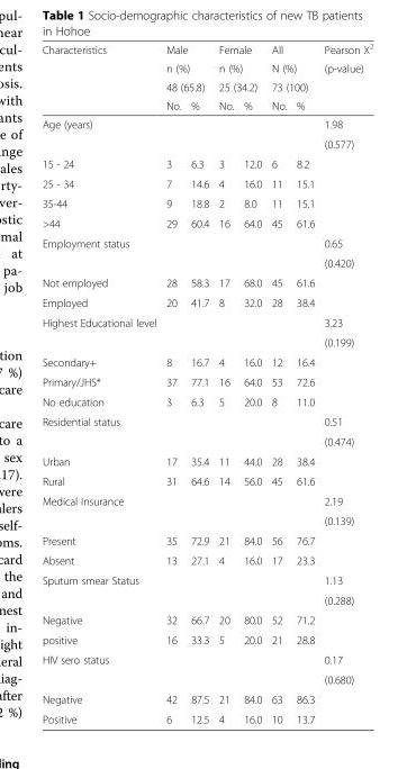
<table><thead><tr><td rowspan="4">Characteristics</td><td rowspan="3" colspan="2">Male n (%) 48 (65.8)</td><td rowspan="3" colspan="2">Female n (%) 25 (34.2)</td><td rowspan="3" colspan="2">All N (%) 73 (100)</td><td rowspan="4">Pearson Χ<sup>2</sup> (p-value)</td></tr><tr></tr><tr></tr><tr><td>No.</td><td>%</td><td>No.</td><td>%</td><td>No.</td><td>%</td></tr></thead><tbody><tr><td rowspan="2">Age (years)</td><td rowspan="2"></td><td rowspan="2"></td><td rowspan="2"></td><td rowspan="2"></td><td rowspan="2"></td><td rowspan="2"></td><td>1.98</td></tr><tr><td>(0.577)</td></tr><tr><td>15 - 24</td><td>3</td><td>6.3</td><td>3</td><td>12.0</td><td>6</td><td>8.2</td><td></td></tr><tr><td>25 - 34</td><td>7</td><td>14.6</td><td>4</td><td>16.0</td><td>11</td><td>15.1</td><td></td></tr><tr><td>35-44</td><td>9</td><td>18.8</td><td>2</td><td>8.0</td><td>11</td><td>15.1</td><td></td></tr><tr><td>&gt;44</td><td>29</td><td>60.4</td><td>16</td><td>64.0</td><td>45</td><td>61.6</td><td></td></tr><tr><td rowspan="2">Employment status</td><td rowspan="2"></td><td rowspan="2"></td><td rowspan="2"></td><td rowspan="2"></td><td rowspan="2"></td><td rowspan="2"></td><td>0.65</td></tr><tr><td>(0.420)</td></tr><tr><td>Not employed</td><td>28</td><td>58.3</td><td>17</td><td>68.0</td><td>45</td><td>61.6</td><td></td></tr><tr><td>Employed</td><td>20</td><td>41.7</td><td>8</td><td>32.0</td><td>28</td><td>38.4</td><td></td></tr><tr><td rowspan="2">Highest Educational level</td><td rowspan="2"></td><td rowspan="2"></td><td rowspan="2"></td><td rowspan="2"></td><td rowspan="2"></td><td rowspan="2"></td><td>3.23</td></tr><tr><td>(0.199)</td></tr><tr><td>Secondary+</td><td>8</td><td>16.7</td><td>4</td><td>16.0</td><td>12</td><td>16.4</td><td></td></tr><tr><td>Primary/JHS*</td><td>37</td><td>77.1</td><td>16</td><td>64.0</td><td>53</td><td>72.6</td><td></td></tr><tr><td>No education</td><td>3</td><td>6.3</td><td>5</td><td>20.0</td><td>8</td><td>11.0</td><td></td></tr><tr><td rowspan="2">Residential status</td><td rowspan="2"></td><td rowspan="2"></td><td rowspan="2"></td><td rowspan="2"></td><td rowspan="2"></td><td rowspan="2"></td><td>0.51</td></tr><tr><td>(0.474)</td></tr><tr><td>Urban</td><td>17</td><td>35.4</td><td>11</td><td>44.0</td><td>28</td><td>38.4</td><td></td></tr><tr><td>Rural</td><td>31</td><td>64.6</td><td>14</td><td>56.0</td><td>45</td><td>61.6</td><td></td></tr><tr><td rowspan="2">Medical Insurance</td><td rowspan="2"></td><td rowspan="2"></td><td rowspan="2"></td><td rowspan="2"></td><td rowspan="2"></td><td rowspan="2"></td><td>2.19</td></tr><tr><td>(0.139)</td></tr><tr><td>Present</td><td>35</td><td>72.9</td><td>21</td><td>84.0</td><td>56</td><td>76.7</td><td></td></tr><tr><td>Absent</td><td>13</td><td>27.1</td><td>4</td><td>16.0</td><td>17</td><td>23.3</td><td></td></tr><tr><td rowspan="2">Sputum smear Status</td><td rowspan="2"></td><td rowspan="2"></td><td rowspan="2"></td><td rowspan="2"></td><td rowspan="2"></td><td rowspan="2"></td><td>1.13</td></tr><tr><td>(0.288)</td></tr><tr><td>Negative</td><td>32</td><td>66.7</td><td>20</td><td>80.0</td><td>52</td><td>71.2</td><td></td></tr><tr><td>positive</td><td>16</td><td>33.3</td><td>5</td><td>20.0</td><td>21</td><td>28.8</td><td></td></tr><tr><td rowspan="2">HIV sero status</td><td rowspan="2"></td><td rowspan="2"></td><td rowspan="2"></td><td rowspan="2"></td><td rowspan="2"></td><td rowspan="2"></td><td>0.17</td></tr><tr><td>(0.680)</td></tr><tr><td>Negative</td><td>42</td><td>87.5</td><td>21</td><td>84.0</td><td>63</td><td>86.3</td><td></td></tr><tr><td>Positive</td><td>6</td><td>12.5</td><td>4</td><td>16.0</td><td>10</td><td>13.7</td><td></td></tr></tbody></table>